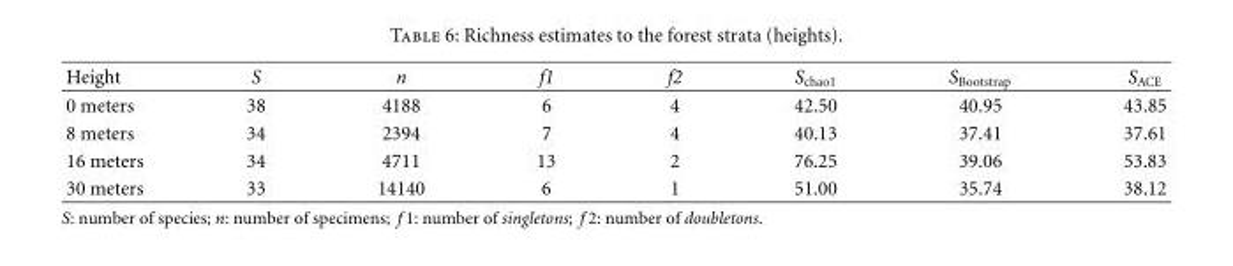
<table><thead><tr><td>Height</td><td>S</td><td>n</td><td>f1</td><td>f2</td><td>S<sub>chao1</sub></td><td>S<sub>Bootstrap</sub></td><td>S<sub>ACE</sub></td></tr></thead><tbody><tr><td>0 meters</td><td>38</td><td>4188</td><td>6</td><td>4</td><td>42.50</td><td>40.95</td><td>43.85</td></tr><tr><td>8 meters</td><td>34</td><td>2394</td><td>7</td><td>4</td><td>40.13</td><td>37.41</td><td>37.61</td></tr><tr><td>16 meters</td><td>34</td><td>4711</td><td>13</td><td>2</td><td>76.25</td><td>39.06</td><td>53.83</td></tr><tr><td>30 meters</td><td>33</td><td>14140</td><td>6</td><td>1</td><td>51.00</td><td>35.74</td><td>38.12</td></tr></tbody></table>